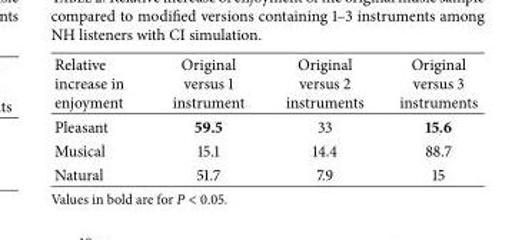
<table><thead><tr><td>Relative increase in enjoyment</td><td>Original versus 1 instrument</td><td>Original versus 2 instruments</td><td>Original versus 3 instruments</td></tr></thead><tbody><tr><td>Pleasant</td><td>59.5</td><td>33</td><td>15.6</td></tr><tr><td>Musical</td><td>15.1</td><td>14.4</td><td>88.7</td></tr><tr><td>Natural</td><td>51.7</td><td>7.9</td><td>15</td></tr></tbody></table>